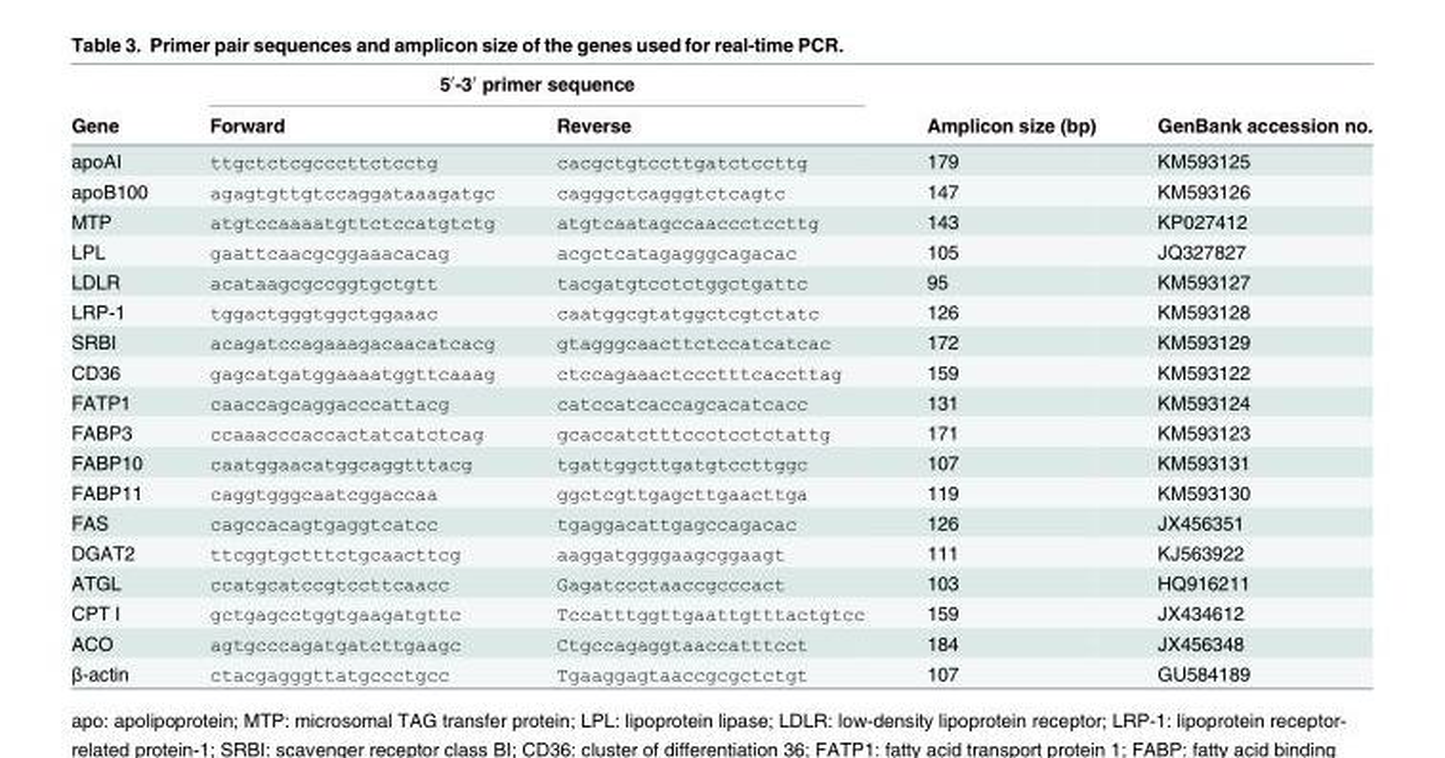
<table><thead><tr><td rowspan="2">Gene</td><td colspan="2">5′-3′ primer sequence</td><td rowspan="2">Amplicon size (bp)</td><td rowspan="2">GenBank accession no.</td></tr><tr><td>Forward</td><td>Reverse</td></tr></thead><tbody><tr><td>apoAI</td><td>ttgctctcgcccttctcctg</td><td>cacgctgtccttgatctccttg</td><td>179</td><td>KM593125</td></tr><tr><td>apoB100</td><td>agagtgttgtccaggataaagatgc</td><td>cagggctcagggtctcagtc</td><td>147</td><td>KM593126</td></tr><tr><td>MTP</td><td>atgtccaaaatgttctccatgtctg</td><td>atgtcaatagccaaccctccttg</td><td>143</td><td>KP027412</td></tr><tr><td>LPL</td><td>gaattcaacgcggaaacacag</td><td>acgctcatagagggcagacac</td><td>105</td><td>JQ327827</td></tr><tr><td>LDLR</td><td>acataagcgccggtgctgtt</td><td>tacgatgtcctctggctgattc</td><td>95</td><td>KM593127</td></tr><tr><td>LRP-1</td><td>tggactgggtggctggaaac</td><td>caatggcgtatggctcgtctatc</td><td>126</td><td>KM593128</td></tr><tr><td>SRBI</td><td>acagatccagaaagacaacatcacg</td><td>gtagggcaacttctccatcatcac</td><td>172</td><td>KM593129</td></tr><tr><td>CD36</td><td>gagcatgatggaaaatggttcaaag</td><td>ctccagaaactccctttcaccttag</td><td>159</td><td>KM593122</td></tr><tr><td>FATP1</td><td>caaccagcaggacccattacg</td><td>catccatcaccagcacatcacc</td><td>131</td><td>KM593124</td></tr><tr><td>FABP3</td><td>ccaaacccaccactatcatctcag</td><td>gcaccatctttccctcctctattg</td><td>171</td><td>KM593123</td></tr><tr><td>FABP10</td><td>caatggaacatggcaggtttacg</td><td>tgattggcttgatgtccttggc</td><td>107</td><td>KM593131</td></tr><tr><td>FABP11</td><td>caggtgggcaatcggaccaa</td><td>ggctcgttgagcttgaacttga</td><td>119</td><td>KM593130</td></tr><tr><td>FAS</td><td>cagccacagtgaggtcatcc</td><td>tgaggacattgagccagacac</td><td>126</td><td>JX456351</td></tr><tr><td>DGAT2</td><td>ttcggtgctttctgcaacttcg</td><td>aaggatggggaagcggaagt</td><td>111</td><td>KJ563922</td></tr><tr><td>ATGL</td><td>ccatgcatccgtccttcaacc</td><td>Gagatccctaaccgcccact</td><td>103</td><td>HQ916211</td></tr><tr><td>CPT I</td><td>gctgagcctggtgaagatgttc</td><td>Tccatttggttgaattgtttactgtcc</td><td>159</td><td>JX434612</td></tr><tr><td>ACO</td><td>agtgcccagatgatcttgaagc</td><td>Ctgccagaggtaaccatttcct</td><td>184</td><td>JX456348</td></tr><tr><td>β-actin</td><td>ctacgagggttatgccctgcc</td><td>Tgaaggagtaaccgcgctctgt</td><td>107</td><td>GU584189</td></tr></tbody></table>